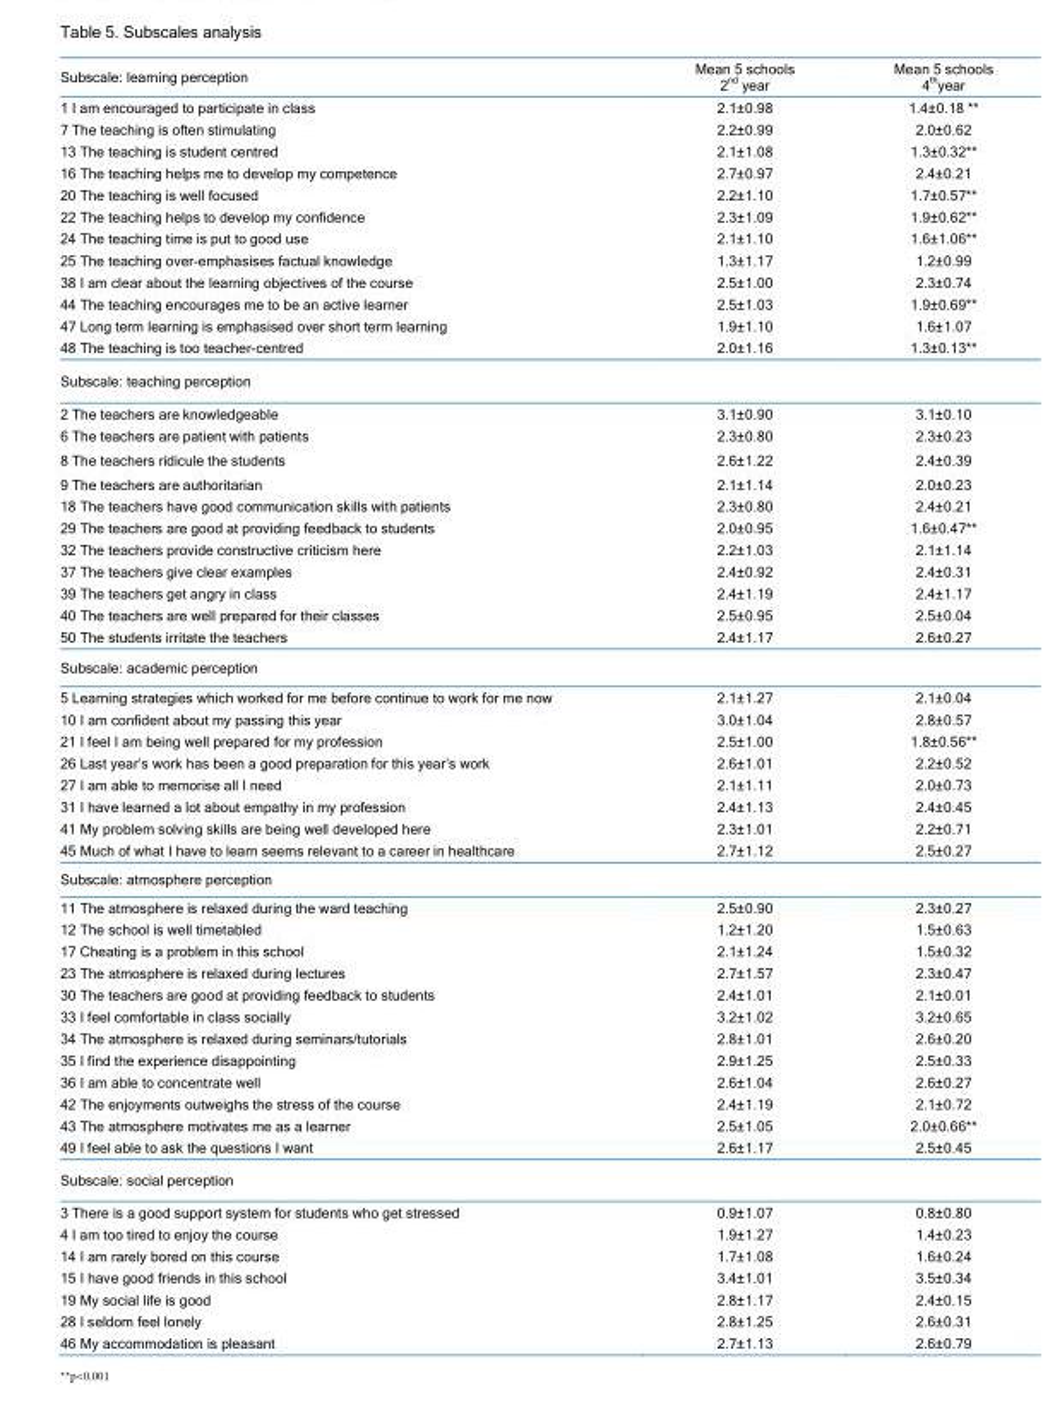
<table><thead><tr><td>Subscale: learning perception</td><td>Mean 5 schools 2<sup>nd</sup> year</td><td>Mean 5 schools 4<sup>th</sup>year</td></tr></thead><tbody><tr><td>1 I am encouraged to participate in class</td><td>2.1±0.98</td><td>1.4±0.18 **</td></tr><tr><td>7 The teaching is often stimulating</td><td>2.2±0.99</td><td>2.0±0.62</td></tr><tr><td>13 The teaching is student centred</td><td>2.1±1.08</td><td>1.3±0.32**</td></tr><tr><td>16 The teaching helps me to develop my competence</td><td>2.7±0.97</td><td>2.4±0.21</td></tr><tr><td>20 The teaching is well focused</td><td>2.2±1.10</td><td>1.7±0.57**</td></tr><tr><td>22 The teaching helps to develop my confidence</td><td>2.3±1.09</td><td>1.9±0.62**</td></tr><tr><td>24 The teaching time is put to good use</td><td>2.1±1.10</td><td>1.6±1.06**</td></tr><tr><td>25 The teaching over-emphasises factual knowledge</td><td>1.3±1.17</td><td>1.2±0.99</td></tr><tr><td>38 I am clear about the learning objectives of the course</td><td>2.5±1.00</td><td>2.3±0.74</td></tr><tr><td>44 The teaching encourages me to be an active learner</td><td>2.5±1.03</td><td>1.9±0.69**</td></tr><tr><td>47 Long term learning is emphasised over short term learning</td><td>1.9±1.10</td><td>1.6±1.07</td></tr><tr><td>48 The teaching is too teacher-centred</td><td>2.0±1.16</td><td>1.3±0.13**</td></tr><tr><td colspan="3">Subscale: teaching perception</td></tr><tr><td>2 The teachers are knowledgeable</td><td>3.1±0.90</td><td>3.1±0.10</td></tr><tr><td>6 The teachers are patient with patients</td><td>2.3±0.80</td><td>2.3±0.23</td></tr><tr><td>8 The teachers ridicule the students</td><td>2.6±1.22</td><td>2.4±0.39</td></tr><tr><td>9 The teachers are authoritarian</td><td>2.1±1.14</td><td>2.0±0.23</td></tr><tr><td>18 The teachers have good communication skills with patients</td><td>2.3±0.80</td><td>2.4±0.21</td></tr><tr><td>29 The teachers are good at providing feedback to students</td><td>2.0±0.95</td><td>1.6±0.47**</td></tr><tr><td>32 The teachers provide constructive criticism here</td><td>2.2±1.03</td><td>2.1±1.14</td></tr><tr><td>37 The teachers give clear examples</td><td>2.4±0.92</td><td>2.4±0.31</td></tr><tr><td>39 The teachers get angry in class</td><td>2.4±1.19</td><td>2.4±1.17</td></tr><tr><td>40 The teachers are well prepared for their classes</td><td>2.5±0.95</td><td>2.5±0.04</td></tr><tr><td>50 The students irritate the teachers</td><td>2.4±1.17</td><td>2.6±0.27</td></tr><tr><td colspan="3">Subscale: academic perception</td></tr><tr><td>5 Learning strategies which worked for me before continue to work for me now</td><td>2.1±1.27</td><td>2.1±0.04</td></tr><tr><td>10 I am confident about my passing this year</td><td>3.0±1.04</td><td>2.8±0.57</td></tr><tr><td>21 I feel I am being well prepared for my profession</td><td>2.5±1.00</td><td>1.8±0.56**</td></tr><tr><td>26 Last year’s work has been a good preparation for this year’s work</td><td>2.6±1.01</td><td>2.2±0.52</td></tr><tr><td>27 I am able to memorise all I need</td><td>2.1±1.11</td><td>2.0±0.73</td></tr><tr><td>31 I have learned a lot about empathy in my profession</td><td>2.4±1.13</td><td>2.4±0.45</td></tr><tr><td>41 My problem solving skills are being well developed here</td><td>2.3±1.01</td><td>2.2±0.71</td></tr><tr><td>45 Much of what I have to learn seems relevant to a career in healthcare</td><td>2.7±1.12</td><td>2.5±0.27</td></tr><tr><td colspan="3">Subscale: atmosphere perception</td></tr><tr><td>11 The atmosphere is relaxed during the ward teaching</td><td>2.5±0.90</td><td>2.3±0.27</td></tr><tr><td>12 The school is well timetabled</td><td>1.2±1.20</td><td>1.5±0.63</td></tr><tr><td>17 Cheating is a problem in this school</td><td>2.1±1.24</td><td>1.5±0.32</td></tr><tr><td>23 The atmosphere is relaxed during lectures</td><td>2.7±1.57</td><td>2.3±0.47</td></tr><tr><td>30 The teachers are good at providing feedback to students</td><td>2.4±1.01</td><td>2.1±0.01</td></tr><tr><td>33 I feel comfortable in class socially</td><td>3.2±1.02</td><td>3.2±0.65</td></tr><tr><td>34 The atmosphere is relaxed during seminars/tutorials</td><td>2.8±1.01</td><td>2.6±0.20</td></tr><tr><td>35 I find the experience disappointing</td><td>2.9±1.25</td><td>2.5±0.33</td></tr><tr><td>36 I am able to concentrate well</td><td>2.6±1.04</td><td>2.6±0.27</td></tr><tr><td>42 The enjoyments outweighs the stress of the course</td><td>2.4±1.19</td><td>2.1±0.72</td></tr><tr><td>43 The atmosphere motivates me as a learner</td><td>2.5±1.05</td><td>2.0±0.66**</td></tr><tr><td>49 I feel able to ask the questions I want</td><td>2.6±1.17</td><td>2.5±0.45</td></tr><tr><td colspan="3">Subscale: social perception</td></tr><tr><td>3 There is a good support system for students who get stressed</td><td>0.9±1.07</td><td>0.8±0.80</td></tr><tr><td>4 I am too tired to enjoy the course</td><td>1.9±1.27</td><td>1.4±0.23</td></tr><tr><td>14 I am rarely bored on this course</td><td>1.7±1.08</td><td>1.6±0.24</td></tr><tr><td>15 I have good friends in this school</td><td>3.4±1.01</td><td>3.5±0.34</td></tr><tr><td>19 My social life is good</td><td>2.8±1.17</td><td>2.4±0.15</td></tr><tr><td>28 I seldom feel lonely</td><td>2.8±1.25</td><td>2.6±0.31</td></tr><tr><td>46 My accommodation is pleasant</td><td>2.7±1.13</td><td>2.6±0.79</td></tr></tbody></table>